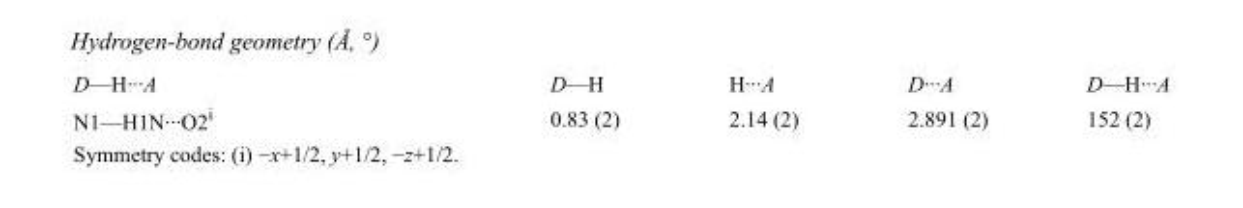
<table><tbody><tr><td>D—H···A</td><td>D—H</td><td>H···A</td><td>D···A</td><td>D—H···A</td></tr><tr><td>N1—H1N···O2<sup>i</sup></td><td>0.83 (2)</td><td>2.14 (2)</td><td>2.891 (2)</td><td>152 (2)</td></tr></tbody></table>